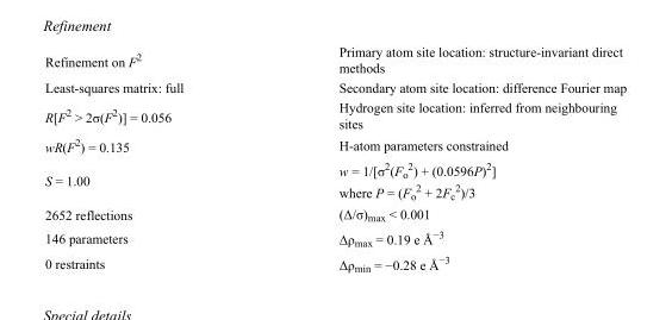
<table><tbody><tr><td>Refinement on F<sup>2</sup></td><td>Primary atom site location: structure-invariant direct methods</td></tr><tr><td>Least-squares matrix: full</td><td>Secondary atom site location: difference Fourier map</td></tr><tr><td>R[F<sup>2</sup> &gt; 2σ(F<sup>2</sup>)] = 0.056</td><td>Hydrogen site location: inferred from neighbouring sites</td></tr><tr><td>wR(F<sup>2</sup>) = 0.135</td><td>H-atom parameters constrained</td></tr><tr><td>S = 1.00</td><td>w = 1/[σ<sup>2</sup>(F<sub>o</sub> <sup>2</sup>) + (0.0596P)<sup>2</sup>] where P = (F<sub>o</sub> <sup>2</sup> + 2F<sub>c</sub> <sup>2</sup>)/3</td></tr><tr><td>2652 reflections</td><td>(Δ/σ)<sub>max</sub> &lt; 0.001</td></tr><tr><td>146 parameters</td><td>Δρ<sub>max</sub> = 0.19 e Å<sup>−3</sup></td></tr><tr><td>0 restraints</td><td>Δρ<sub>min</sub> = −0.28 e Å<sup>−3</sup></td></tr></tbody></table>